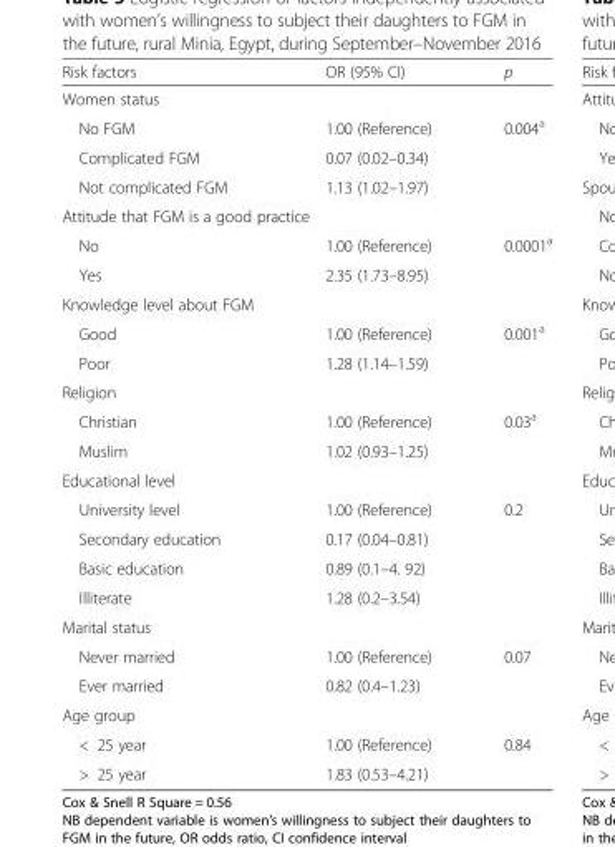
<table><thead><tr><td>Risk factors</td><td>OR (95% CI)</td><td>p</td></tr></thead><tbody><tr><td colspan="3">Women status</td></tr><tr><td>No FGM</td><td>1.00 (Reference)</td><td>0.004<sup>a</sup></td></tr><tr><td>Complicated FGM</td><td>0.07 (0.02–0.34)</td><td></td></tr><tr><td>Not complicated FGM</td><td>1.13 (1.02–1.97)</td><td></td></tr><tr><td colspan="3">Attitude that FGM is a good practice</td></tr><tr><td>No</td><td>1.00 (Reference)</td><td>0.0001<sup>a</sup></td></tr><tr><td>Yes</td><td>2.35 (1.73–8.95)</td><td></td></tr><tr><td colspan="3">Knowledge level about FGM</td></tr><tr><td>Good</td><td>1.00 (Reference)</td><td>0.001<sup>a</sup></td></tr><tr><td>Poor</td><td>1.28 (1.14–1.59)</td><td></td></tr><tr><td colspan="3">Religion</td></tr><tr><td>Christian</td><td>1.00 (Reference)</td><td>0.03<sup>a</sup></td></tr><tr><td>Muslim</td><td>1.02 (0.93–1.25)</td><td></td></tr><tr><td colspan="3">Educational level</td></tr><tr><td>University level</td><td>1.00 (Reference)</td><td>0.2</td></tr><tr><td>Secondary education</td><td>0.17 (0.04–0.81)</td><td></td></tr><tr><td>Basic education</td><td>0.89 (0.1–4. 92)</td><td></td></tr><tr><td>Illiterate</td><td>1.28 (0.2–3.54)</td><td></td></tr><tr><td colspan="3">Marital status</td></tr><tr><td>Never married</td><td>1.00 (Reference)</td><td>0.07</td></tr><tr><td>Ever married</td><td>0.82 (0.4–1.23)</td><td></td></tr><tr><td colspan="3">Age group</td></tr><tr><td>&lt; 25 year</td><td>1.00 (Reference)</td><td>0.84</td></tr><tr><td>&gt; 25 year</td><td>1.83 (0.53–4.21)</td><td></td></tr></tbody></table>